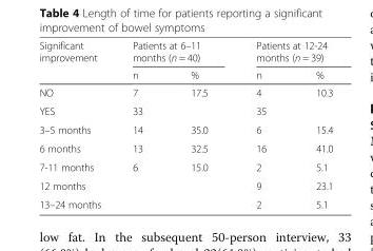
<table><thead><tr><td rowspan="2">Significant improvement</td><td colspan="2">Patients at 6–11 months (n = 40)</td><td colspan="2">Patients at 12-24 months (n = 39)</td></tr><tr><td>n</td><td>%</td><td>n</td><td>%</td></tr></thead><tbody><tr><td>NO</td><td>7</td><td>17.5</td><td>4</td><td>10.3</td></tr><tr><td>YES</td><td>33</td><td></td><td>35</td><td></td></tr><tr><td>3–5 months</td><td>14</td><td>35.0</td><td>6</td><td>15.4</td></tr><tr><td>6 months</td><td>13</td><td>32.5</td><td>16</td><td>41.0</td></tr><tr><td>7-11 months</td><td>6</td><td>15.0</td><td>2</td><td>5.1</td></tr><tr><td>12 months</td><td></td><td></td><td>9</td><td>23.1</td></tr><tr><td>13–24 months</td><td></td><td></td><td>2</td><td>5.1</td></tr></tbody></table>